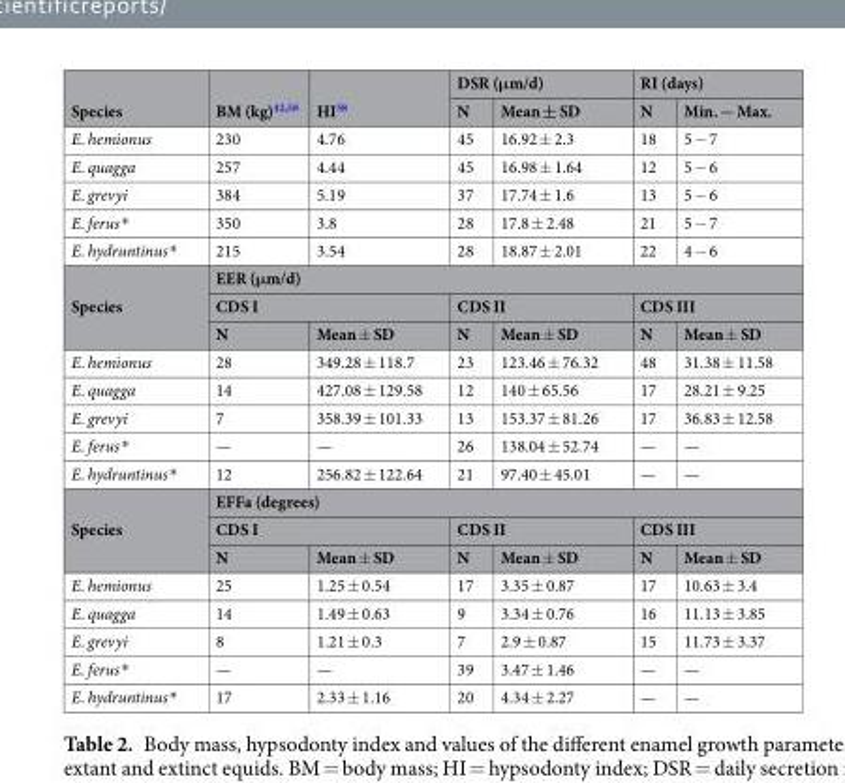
<table><thead><tr><td rowspan="2">Species</td><td rowspan="2">BM (kg)<sup>42,58</sup></td><td rowspan="2">HI<sup>58</sup></td><td colspan="2">DSR (μm/d)</td><td colspan="2">RI (days)</td></tr><tr><td>N</td><td>Mean ± SD</td><td>N</td><td>Min. − Max.</td></tr></thead><tbody><tr><td>E. hemionus</td><td>230</td><td>4.76</td><td>45</td><td>16.92 ± 2.3</td><td>18</td><td>5 − 7</td></tr><tr><td>E. quagga</td><td>257</td><td>4.44</td><td>45</td><td>16.98 ± 1.64</td><td>12</td><td>5 − 6</td></tr><tr><td>E. grevyi</td><td>384</td><td>5.19</td><td>37</td><td>17.74 ± 1.6</td><td>13</td><td>5 − 6</td></tr><tr><td>E. ferus*</td><td>350</td><td>3.8</td><td>28</td><td>17.8 ± 2.48</td><td>21</td><td>5 − 7</td></tr><tr><td>E. hydruntinus*</td><td>215</td><td>3.54</td><td>28</td><td>18.87 ± 2.01</td><td>22</td><td>4 − 6</td></tr><tr><td rowspan="3">Species</td><td colspan="6">EER (μm/d)</td></tr><tr><td colspan="2">CDS I</td><td colspan="2">CDS II</td><td colspan="2">CDS III</td></tr><tr><td>N</td><td>Mean ± SD</td><td>N</td><td>Mean ± SD</td><td>N</td><td>Mean ± SD</td></tr><tr><td>E. hemionus</td><td>28</td><td>349.28 ± 118.7</td><td>23</td><td>123.46 ± 76.32</td><td>48</td><td>31.38 ± 11.58</td></tr><tr><td>E. quagga</td><td>14</td><td>427.08 ± 129.58</td><td>12</td><td>140 ± 65.56</td><td>17</td><td>28.21 ± 9.25</td></tr><tr><td>E. grevyi</td><td>7</td><td>358.39 ± 101.33</td><td>13</td><td>153.37 ± 81.26</td><td>17</td><td>36.83 ± 12.58</td></tr><tr><td>E. ferus*</td><td>—</td><td>—</td><td>26</td><td>138.04 ± 52.74</td><td>—</td><td>—</td></tr><tr><td>E. hydruntinus*</td><td>12</td><td>256.82 ± 122.64</td><td>21</td><td>97.40 ± 45.01</td><td>—</td><td>—</td></tr><tr><td rowspan="3">Species</td><td colspan="6">EFFa (degrees)</td></tr><tr><td colspan="2">CDS I</td><td colspan="2">CDS II</td><td colspan="2">CDS III</td></tr><tr><td>N</td><td>Mean ± SD</td><td>N</td><td>Mean ± SD</td><td>N</td><td>Mean ± SD</td></tr><tr><td>E. hemionus</td><td>25</td><td>1.25 ± 0.54</td><td>17</td><td>3.35 ± 0.87</td><td>17</td><td>10.63 ± 3.4</td></tr><tr><td>E. quagga</td><td>14</td><td>1.49 ± 0.63</td><td>9</td><td>3.34 ± 0.76</td><td>16</td><td>11.13 ± 3.85</td></tr><tr><td>E. grevyi</td><td>8</td><td>1.21 ± 0.3</td><td>7</td><td>2.9 ± 0.87</td><td>15</td><td>11.73 ± 3.37</td></tr><tr><td>E. ferus*</td><td>—</td><td>—</td><td>39</td><td>3.47 ± 1.46</td><td>—</td><td>—</td></tr><tr><td>E. hydruntinus*</td><td>17</td><td>2.33 ± 1.16</td><td>20</td><td>4.34 ± 2.27</td><td>—</td><td>—</td></tr></tbody></table>